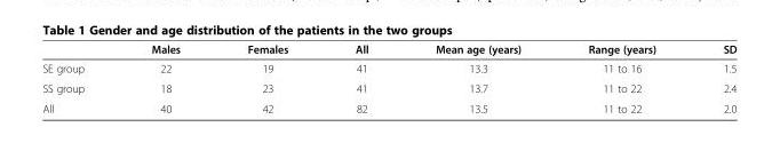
<table><thead><tr><td></td><td>Males</td><td>Females</td><td>All</td><td>Mean age (years)</td><td>Range (years)</td><td>SD</td></tr></thead><tbody><tr><td>SE group</td><td>22</td><td>19</td><td>41</td><td>13.3</td><td>11 to 16</td><td>1.5</td></tr><tr><td>SS group</td><td>18</td><td>23</td><td>41</td><td>13.7</td><td>11 to 22</td><td>2.4</td></tr><tr><td>All</td><td>40</td><td>42</td><td>82</td><td>13.5</td><td>11 to 22</td><td>2.0</td></tr></tbody></table>